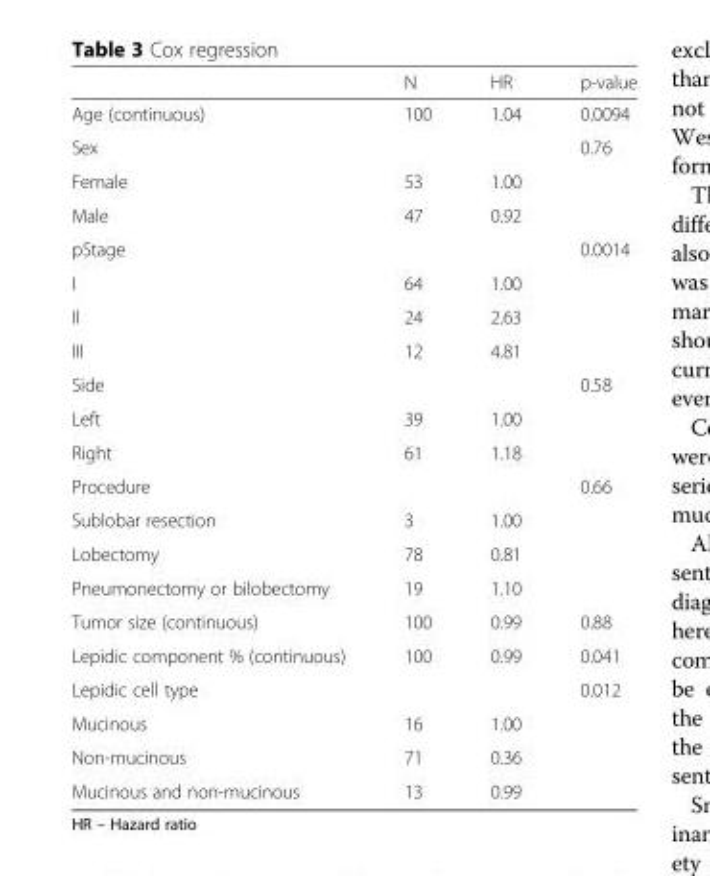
<table><thead><tr><td></td><td>N</td><td>HR</td><td>p-value</td></tr></thead><tbody><tr><td>Age (continuous)</td><td>100</td><td>1.04</td><td>0.0094</td></tr><tr><td>Sex</td><td></td><td></td><td>0.76</td></tr><tr><td>Female</td><td>53</td><td>1.00</td><td></td></tr><tr><td>Male</td><td>47</td><td>0.92</td><td></td></tr><tr><td>pStage</td><td></td><td></td><td>0.0014</td></tr><tr><td>I</td><td>64</td><td>1.00</td><td></td></tr><tr><td>II</td><td>24</td><td>2.63</td><td></td></tr><tr><td>III</td><td>12</td><td>4.81</td><td></td></tr><tr><td>Side</td><td></td><td></td><td>0.58</td></tr><tr><td>Left</td><td>39</td><td>1.00</td><td></td></tr><tr><td>Right</td><td>61</td><td>1.18</td><td></td></tr><tr><td>Procedure</td><td></td><td></td><td>0.66</td></tr><tr><td>Sublobar resection</td><td>3</td><td>1.00</td><td></td></tr><tr><td>Lobectomy</td><td>78</td><td>0.81</td><td></td></tr><tr><td>Pneumonectomy or bilobectomy</td><td>19</td><td>1.10</td><td></td></tr><tr><td>Tumor size (continuous)</td><td>100</td><td>0.99</td><td>0.88</td></tr><tr><td>Lepidic component % (continuous)</td><td>100</td><td>0.99</td><td>0.041</td></tr><tr><td>Lepidic cell type</td><td></td><td></td><td>0.012</td></tr><tr><td>Mucinous</td><td>16</td><td>1.00</td><td></td></tr><tr><td>Non-mucinous</td><td>71</td><td>0.36</td><td></td></tr><tr><td>Mucinous and non-mucinous</td><td>13</td><td>0.99</td><td></td></tr></tbody></table>